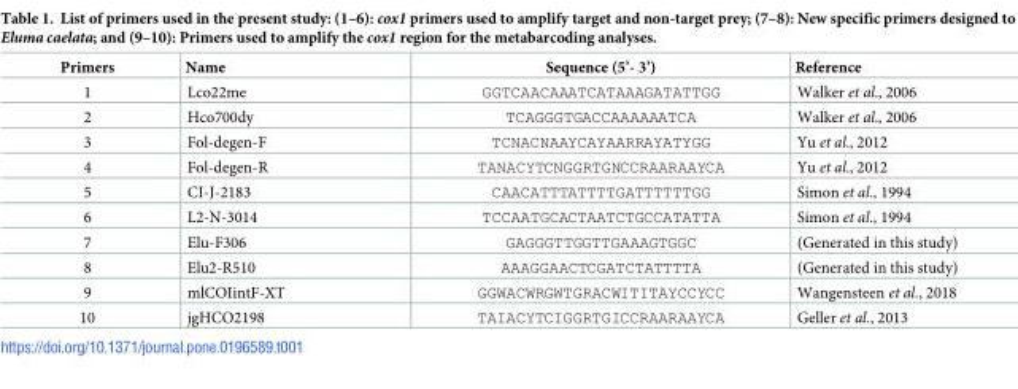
<table><thead><tr><td>Primers</td><td>Name</td><td>Sequence (5’- 3’)</td><td>Reference</td></tr></thead><tbody><tr><td>1</td><td>Lco22me</td><td>GGTCAACAAATCATAAAGATATTGG</td><td>Walker et al., 2006</td></tr><tr><td>2</td><td>Hco700dy</td><td>TCAGGGTGACCAAAAAATCA</td><td>Walker et al., 2006</td></tr><tr><td>3</td><td>Fol-degen-F</td><td>TCNACNAAYCAYAARRAYATYGG</td><td>Yu et al., 2012</td></tr><tr><td>4</td><td>Fol-degen-R</td><td>TANACYTCNGGRTGNCCRAARAAYCA</td><td>Yu et al., 2012</td></tr><tr><td>5</td><td>CI-J-2183</td><td>CAACATTTATTTTGATTTTTTGG</td><td>Simon et al., 1994</td></tr><tr><td>6</td><td>L2-N-3014</td><td>TCCAATGCACTAATCTGCCATATTA</td><td>Simon et al., 1994</td></tr><tr><td>7</td><td>Elu-F306</td><td>GAGGGTTGGTTGAAAGTGGC</td><td>(Generated in this study)</td></tr><tr><td>8</td><td>Elu2-R510</td><td>AAAGGAACTCGATCTATTTTA</td><td>(Generated in this study)</td></tr><tr><td>9</td><td>mlCOIintF-XT</td><td>GGWACWRGWTGRACWITITAYCCYCC</td><td>Wangensteen et al., 2018</td></tr><tr><td>10</td><td>jgHCO2198</td><td>TAIACYTCIGGRTGICCRAARAAYCA</td><td>Geller et al., 2013</td></tr></tbody></table>